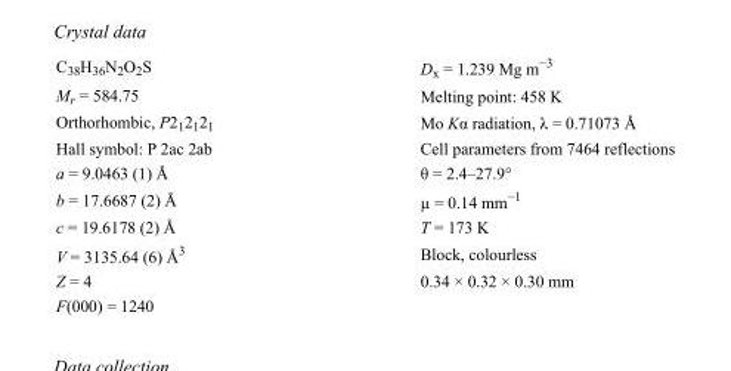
<table><tbody><tr><td>C<sub>38</sub>H<sub>36</sub>N<sub>2</sub>O<sub>2</sub>S</td><td>D<sub>x</sub> = 1.239 Mg m<sup>−3</sup></td></tr><tr><td>M<sub>r</sub> = 584.75</td><td>Melting point: 458 K</td></tr><tr><td>Orthorhombic, P2<sub>1</sub>2<sub>1</sub>2<sub>1</sub></td><td>Mo Kα radiation, λ = 0.71073 Å</td></tr><tr><td>Hall symbol: P 2ac 2ab</td><td>Cell parameters from 7464 reflections</td></tr><tr><td>a = 9.0463 (1) Å</td><td>θ = 2.4–27.9°</td></tr><tr><td>b = 17.6687 (2) Å</td><td>µ = 0.14 mm<sup>−1</sup></td></tr><tr><td>c = 19.6178 (2) Å</td><td>T = 173 K</td></tr><tr><td>V = 3135.64 (6) Å<sup>3</sup></td><td>Block, colourless</td></tr><tr><td>Z = 4</td><td>0.34 × 0.32 × 0.30 mm</td></tr><tr><td>F(000) = 1240</td><td></td></tr></tbody></table>